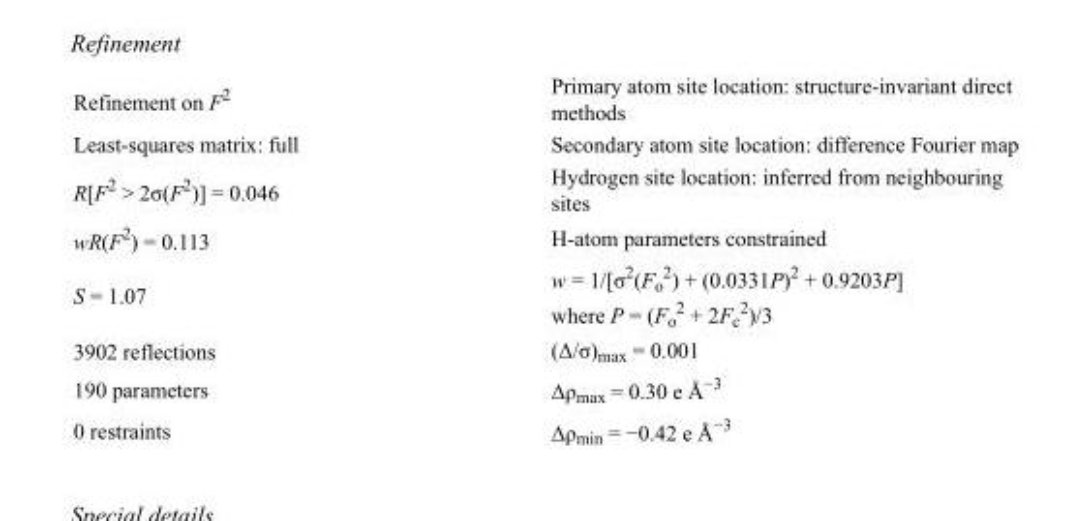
<table><tbody><tr><td>Refinement on F<sup>2</sup></td><td>Primary atom site location: structure-invariant direct methods</td></tr><tr><td>Least-squares matrix: full</td><td>Secondary atom site location: difference Fourier map</td></tr><tr><td>R[F<sup>2</sup> &gt; 2σ(F<sup>2</sup>)] = 0.046</td><td>Hydrogen site location: inferred from neighbouring sites</td></tr><tr><td>wR(F<sup>2</sup>) = 0.113</td><td>H-atom parameters constrained</td></tr><tr><td>S = 1.07</td><td>w = 1/[σ<sup>2</sup>(F<sub>o</sub> <sup>2</sup>) + (0.0331P)<sup>2</sup> + 0.9203P] where P = (F<sub>o</sub> <sup>2</sup> + 2F<sub>c</sub> <sup>2</sup>)/3</td></tr><tr><td>3902 reflections</td><td>(Δ/σ)<sub>max</sub> = 0.001</td></tr><tr><td>190 parameters</td><td>Δρ<sub>max</sub> = 0.30 e Å<sup>−3</sup></td></tr><tr><td>0 restraints</td><td>Δρ<sub>min</sub> = −0.42 e Å<sup>−3</sup></td></tr></tbody></table>